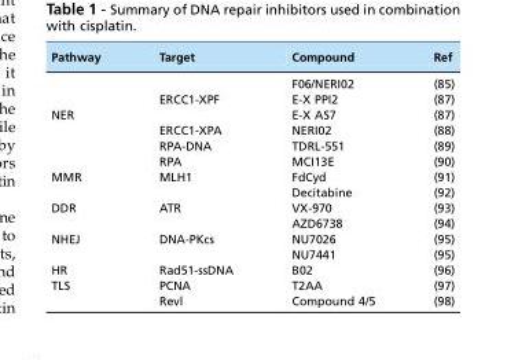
<table><thead><tr><td>Pathway</td><td>Target</td><td>Compound</td><td>Ref</td></tr></thead><tbody><tr><td></td><td></td><td>F06/NERI02</td><td>(85)</td></tr><tr><td></td><td>ERCC1-XPF</td><td>E-X PPI2</td><td>(87)</td></tr><tr><td rowspan="4">NER</td><td></td><td>E-X AS7</td><td>(87)</td></tr><tr><td>ERCC1-XPA</td><td>NERI02</td><td>(88)</td></tr><tr><td>RPA-DNA</td><td>TDRL-551</td><td>(89)</td></tr><tr><td>RPA</td><td>MCI13E</td><td>(90)</td></tr><tr><td rowspan="2">MMR</td><td>MLH1</td><td>FdCyd</td><td>(91)</td></tr><tr><td></td><td>Decitabine</td><td>(92)</td></tr><tr><td rowspan="2">DDR</td><td>ATR</td><td>VX-970</td><td>(93)</td></tr><tr><td></td><td>AZD6738</td><td>(94)</td></tr><tr><td rowspan="2">NHEJ</td><td>DNA-PKcs</td><td>NU7026</td><td>(95)</td></tr><tr><td></td><td>NU7441</td><td>(95)</td></tr><tr><td>HR</td><td>Rad51-ssDNA</td><td>B02</td><td>(96)</td></tr><tr><td rowspan="2">TLS</td><td>PCNA</td><td>T2AA</td><td>(97)</td></tr><tr><td>Revl</td><td>Compound 4/5</td><td>(98)</td></tr></tbody></table>